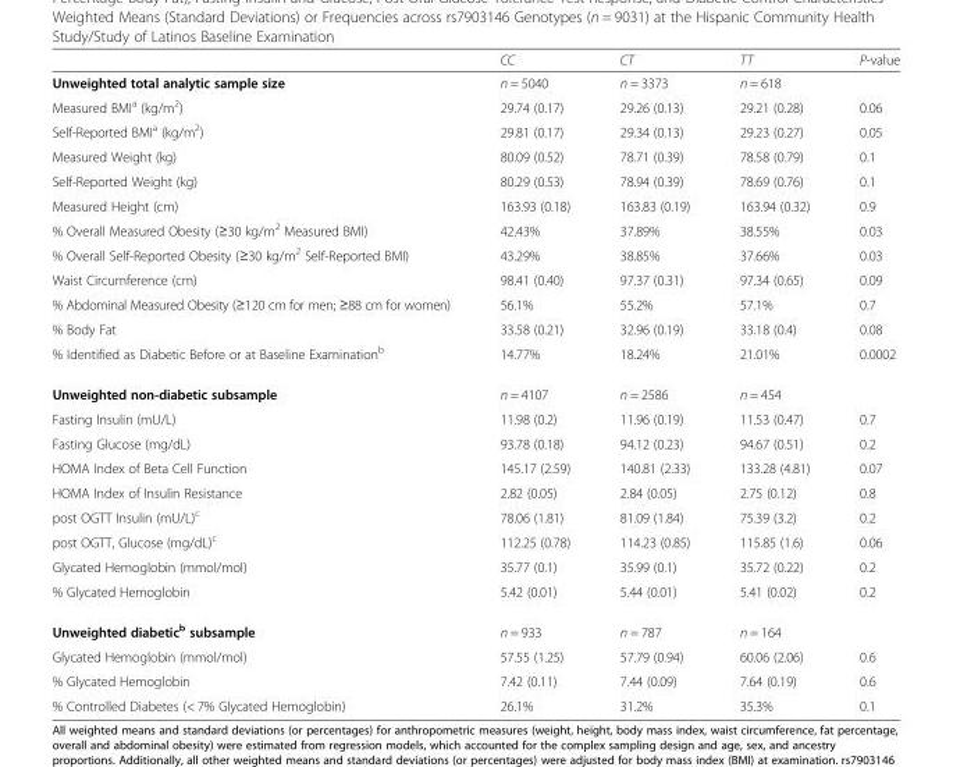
<table><thead><tr><td></td><td>CC</td><td>CT</td><td>TT</td><td>P-value</td></tr></thead><tbody><tr><td>Unweighted total analytic sample size</td><td>n = 5040</td><td>n = 3373</td><td>n = 618</td><td></td></tr><tr><td>Measured BMI<sup>a</sup> (kg/m<sup>2</sup>)</td><td>29.74 (0.17)</td><td>29.26 (0.13)</td><td>29.21 (0.28)</td><td>0.06</td></tr><tr><td>Self-Reported BMI<sup>a</sup> (kg/m<sup>2</sup>)</td><td>29.81 (0.17)</td><td>29.34 (0.13)</td><td>29.23 (0.27)</td><td>0.05</td></tr><tr><td>Measured Weight (kg)</td><td>80.09 (0.52)</td><td>78.71 (0.39)</td><td>78.58 (0.79)</td><td>0.1</td></tr><tr><td>Self-Reported Weight (kg)</td><td>80.29 (0.53)</td><td>78.94 (0.39)</td><td>78.69 (0.76)</td><td>0.1</td></tr><tr><td>Measured Height (cm)</td><td>163.93 (0.18)</td><td>163.83 (0.19)</td><td>163.94 (0.32)</td><td>0.9</td></tr><tr><td>% Overall Measured Obesity (≥30 kg/m<sup>2</sup> Measured BMI)</td><td>42.43%</td><td>37.89%</td><td>38.55%</td><td>0.03</td></tr><tr><td>% Overall Self-Reported Obesity (≥30 kg/m<sup>2</sup> Self-Reported BMI)</td><td>43.29%</td><td>38.85%</td><td>37.66%</td><td>0.03</td></tr><tr><td>Waist Circumference (cm)</td><td>98.41 (0.40)</td><td>97.37 (0.31)</td><td>97.34 (0.65)</td><td>0.09</td></tr><tr><td>% Abdominal Measured Obesity (≥120 cm for men; ≥88 cm for women)</td><td>56.1%</td><td>55.2%</td><td>57.1%</td><td>0.7</td></tr><tr><td>% Body Fat</td><td>33.58 (0.21)</td><td>32.96 (0.19)</td><td>33.18 (0.4)</td><td>0.08</td></tr><tr><td>% Identified as Diabetic Before or at Baseline Examination<sup>b</sup></td><td>14.77%</td><td>18.24%</td><td>21.01%</td><td>0.0002</td></tr><tr><td>Unweighted non-diabetic subsample</td><td>n = 4107</td><td>n = 2586</td><td>n = 454</td><td></td></tr><tr><td>Fasting Insulin (mU/L)</td><td>11.98 (0.2)</td><td>11.96 (0.19)</td><td>11.53 (0.47)</td><td>0.7</td></tr><tr><td>Fasting Glucose (mg/dL)</td><td>93.78 (0.18)</td><td>94.12 (0.23)</td><td>94.67 (0.51)</td><td>0.2</td></tr><tr><td>HOMA Index of Beta Cell Function</td><td>145.17 (2.59)</td><td>140.81 (2.33)</td><td>133.28 (4.81)</td><td>0.07</td></tr><tr><td>HOMA Index of Insulin Resistance</td><td>2.82 (0.05)</td><td>2.84 (0.05)</td><td>2.75 (0.12)</td><td>0.8</td></tr><tr><td>post OGTT Insulin (mU/L)<sup>c</sup></td><td>78.06 (1.81)</td><td>81.09 (1.84)</td><td>75.39 (3.2)</td><td>0.2</td></tr><tr><td>post OGTT, Glucose (mg/dL)<sup>c</sup></td><td>112.25 (0.78)</td><td>114.23 (0.85)</td><td>115.85 (1.6)</td><td>0.06</td></tr><tr><td>Glycated Hemoglobin (mmol/mol)</td><td>35.77 (0.1)</td><td>35.99 (0.1)</td><td>35.72 (0.22)</td><td>0.2</td></tr><tr><td>% Glycated Hemoglobin</td><td>5.42 (0.01)</td><td>5.44 (0.01)</td><td>5.41 (0.02)</td><td>0.2</td></tr><tr><td>Unweighted diabetic<sup>b</sup> subsample</td><td>n = 933</td><td>n = 787</td><td>n = 164</td><td></td></tr><tr><td>Glycated Hemoglobin (mmol/mol)</td><td>57.55 (1.25)</td><td>57.79 (0.94)</td><td>60.06 (2.06)</td><td>0.6</td></tr><tr><td>% Glycated Hemoglobin</td><td>7.42 (0.11)</td><td>7.44 (0.09)</td><td>7.64 (0.19)</td><td>0.6</td></tr><tr><td>% Controlled Diabetes (&lt; 7% Glycated Hemoglobin)</td><td>26.1%</td><td>31.2%</td><td>35.3%</td><td>0.1</td></tr></tbody></table>